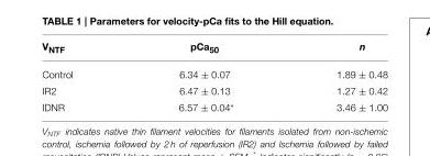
<table><thead><tr><td>V<sub>NTF</sub></td><td>pCa<sub>50</sub></td><td>n</td></tr></thead><tbody><tr><td>Control</td><td>6.34 ± 0.07</td><td>1.89 ± 0.48</td></tr><tr><td>IR2</td><td>6.47 ± 0.13</td><td>1.27 ± 0.42</td></tr><tr><td>IDNR</td><td>6.57 ± 0.04*</td><td>3.46 ± 1.00</td></tr></tbody></table>